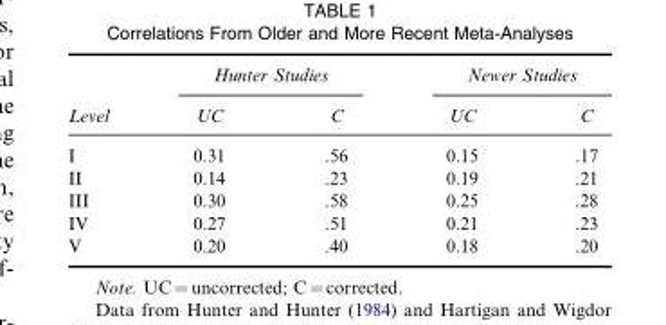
<table><thead><tr><td rowspan="2">Level</td><td colspan="2">Hunter Studies</td><td colspan="2">Newer Studies</td></tr><tr><td>UC</td><td>C</td><td>UC</td><td>C</td></tr></thead><tbody><tr><td>I</td><td>0.31</td><td>.56</td><td>0.15</td><td>.17</td></tr><tr><td>II</td><td>0.14</td><td>.23</td><td>0.19</td><td>.21</td></tr><tr><td>III</td><td>0.30</td><td>.58</td><td>0.25</td><td>.28</td></tr><tr><td>IV</td><td>0.27</td><td>.51</td><td>0.21</td><td>.23</td></tr><tr><td>V</td><td>0.20</td><td>.40</td><td>0.18</td><td>.20</td></tr></tbody></table>